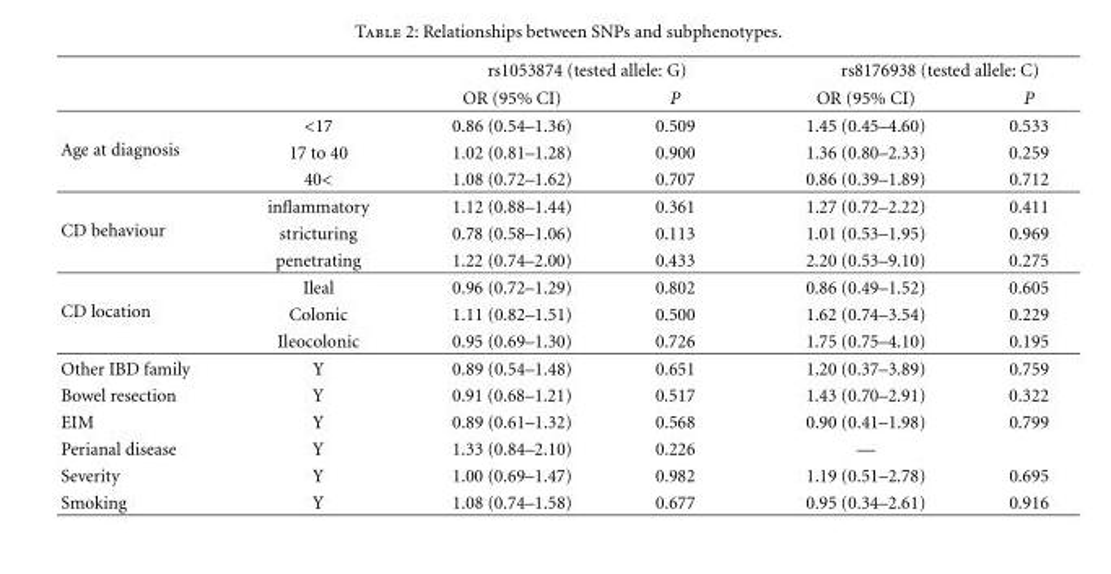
<table><thead><tr><td rowspan="2"></td><td rowspan="2"></td><td colspan="2">rs1053874 (tested allele: G)</td><td colspan="2">rs8176938 (tested allele: C)</td></tr><tr><td>OR (95% CI)</td><td>P</td><td>OR (95% CI)</td><td>P</td></tr></thead><tbody><tr><td rowspan="3">Age at diagnosis</td><td>&lt;17</td><td>0.86 (0.54–1.36)</td><td>0.509</td><td>1.45 (0.45–4.60)</td><td>0.533</td></tr><tr><td>17 to 40</td><td>1.02 (0.81–1.28)</td><td>0.900</td><td>1.36 (0.80–2.33)</td><td>0.259</td></tr><tr><td>40&lt;</td><td>1.08 (0.72–1.62)</td><td>0.707</td><td>0.86 (0.39–1.89)</td><td>0.712</td></tr><tr><td rowspan="3">CD behaviour</td><td>inflammatory</td><td>1.12 (0.88–1.44)</td><td>0.361</td><td>1.27 (0.72–2.22)</td><td>0.411</td></tr><tr><td>stricturing</td><td>0.78 (0.58–1.06)</td><td>0.113</td><td>1.01 (0.53–1.95)</td><td>0.969</td></tr><tr><td>penetrating</td><td>1.22 (0.74–2.00)</td><td>0.433</td><td>2.20 (0.53–9.10)</td><td>0.275</td></tr><tr><td rowspan="3">CD location</td><td>Ileal</td><td>0.96 (0.72–1.29)</td><td>0.802</td><td>0.86 (0.49–1.52)</td><td>0.605</td></tr><tr><td>Colonic</td><td>1.11 (0.82–1.51)</td><td>0.500</td><td>1.62 (0.74–3.54)</td><td>0.229</td></tr><tr><td>Ileocolonic</td><td>0.95 (0.69–1.30)</td><td>0.726</td><td>1.75 (0.75–4.10)</td><td>0.195</td></tr><tr><td>Other IBD family</td><td>Y</td><td>0.89 (0.54–1.48)</td><td>0.651</td><td>1.20 (0.37–3.89)</td><td>0.759</td></tr><tr><td>Bowel resection</td><td>Y</td><td>0.91 (0.68–1.21)</td><td>0.517</td><td>1.43 (0.70–2.91)</td><td>0.322</td></tr><tr><td>EIM</td><td>Y</td><td>0.89 (0.61–1.32)</td><td>0.568</td><td>0.90 (0.41–1.98)</td><td>0.799</td></tr><tr><td>Perianal disease</td><td>Y</td><td>1.33 (0.84–2.10)</td><td>0.226</td><td>—</td><td></td></tr><tr><td>Severity</td><td>Y</td><td>1.00 (0.69–1.47)</td><td>0.982</td><td>1.19 (0.51–2.78)</td><td>0.695</td></tr><tr><td>Smoking</td><td>Y</td><td>1.08 (0.74–1.58)</td><td>0.677</td><td>0.95 (0.34–2.61)</td><td>0.916</td></tr></tbody></table>